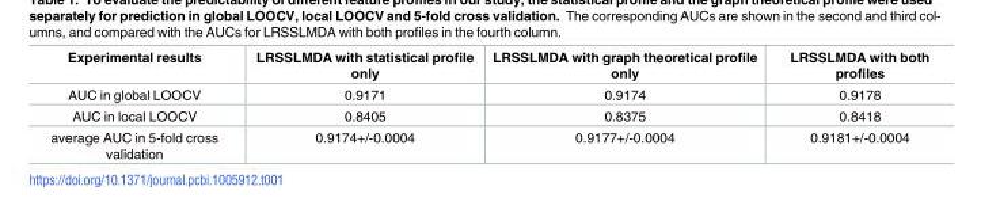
<table><thead><tr><td>Experimental results</td><td>LRSSLMDA with statistical profile only</td><td>LRSSLMDA with graph theoretical profile only</td><td>LRSSLMDA with both profiles</td></tr></thead><tbody><tr><td>AUC in global LOOCV</td><td>0.9171</td><td>0.9174</td><td>0.9178</td></tr><tr><td>AUC in local LOOCV</td><td>0.8405</td><td>0.8375</td><td>0.8418</td></tr><tr><td>average AUC in 5-fold cross validation</td><td>0.9174+/-0.0004</td><td>0.9177+/-0.0004</td><td>0.9181+/-0.0004</td></tr></tbody></table>